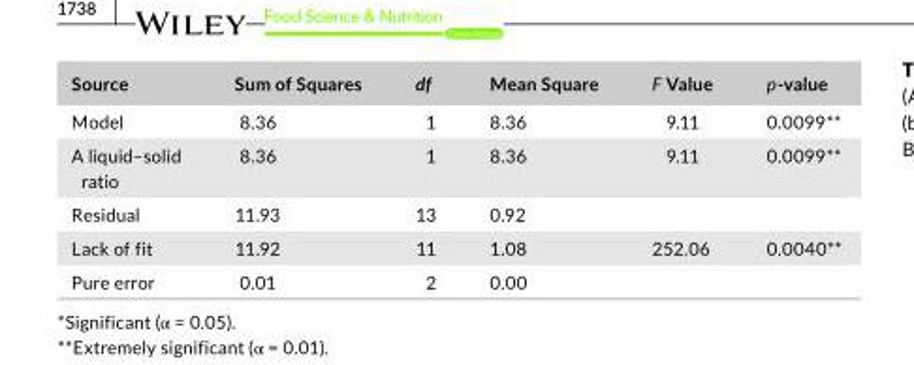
<table><thead><tr><td>Source</td><td>Sum of Squares</td><td>df</td><td>Mean Square</td><td>F Value</td><td>p- value</td></tr></thead><tbody><tr><td>Model</td><td>8.36</td><td>1</td><td>8.36</td><td>9.11</td><td>0.0099**</td></tr><tr><td>A liquid–solid ratio</td><td>8.36</td><td>1</td><td>8.36</td><td>9.11</td><td>0.0099**</td></tr><tr><td>Residual</td><td>11.93</td><td>13</td><td>0.92</td><td></td><td></td></tr><tr><td>Lack of fit</td><td>11.92</td><td>11</td><td>1.08</td><td>252.06</td><td>0.0040**</td></tr><tr><td>Pure error</td><td>0.01</td><td>2</td><td>0.00</td><td></td><td></td></tr></tbody></table>